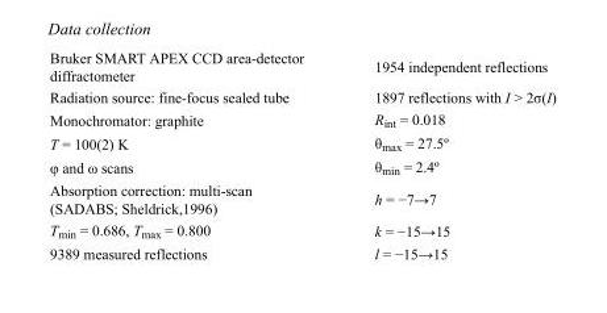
<table><tbody><tr><td>Bruker SMART APEX CCD area-detector diffractometer</td><td>1954 independent reflections</td></tr><tr><td>Radiation source: fine-focus sealed tube</td><td>1897 reflections with I &gt; 2σ(I)</td></tr><tr><td>Monochromator: graphite</td><td>R<sub>int</sub> = 0.018</td></tr><tr><td>T = 100(2) K</td><td>θ<sub>max</sub> = 27.5º</td></tr><tr><td>φ and ω scans</td><td>θ<sub>min</sub> = 2.4º</td></tr><tr><td>Absorption correction: multi-scan (SADABS; Sheldrick,1996)</td><td>h = −7→7</td></tr><tr><td>T<sub>min</sub> = 0.686, T<sub>max</sub> = 0.800</td><td>k = −15→15</td></tr><tr><td>9389 measured reflections</td><td>l = −15→15</td></tr></tbody></table>